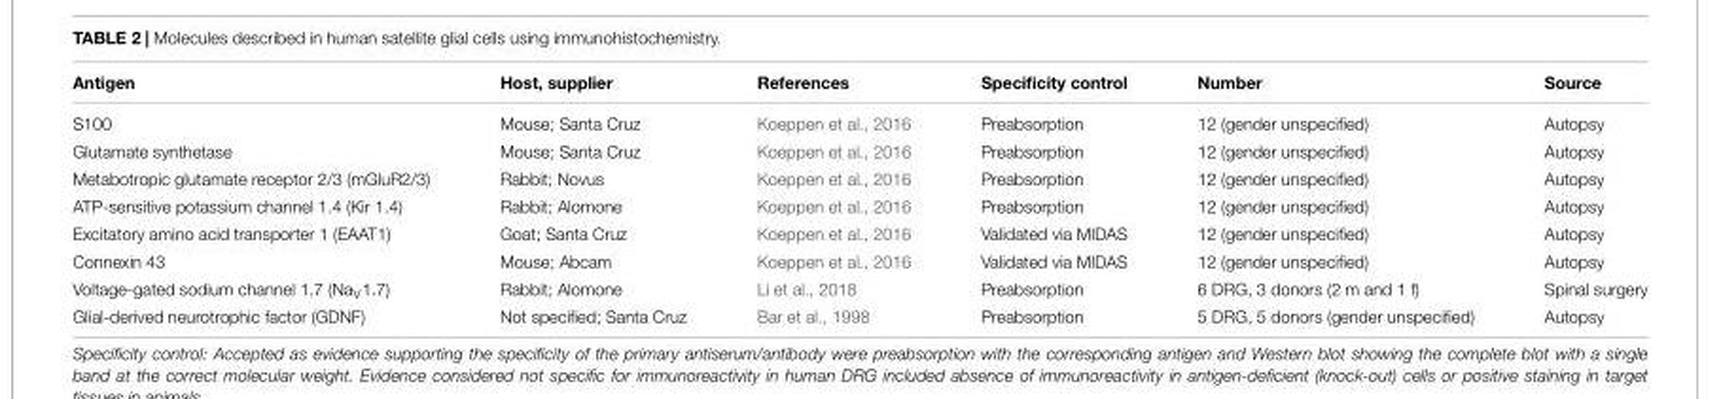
<table><thead><tr><td>Antigen</td><td>Host, supplier</td><td>References</td><td>Specificity control</td><td>Number</td><td>Source</td></tr></thead><tbody><tr><td>S100</td><td>Mouse; Santa Cruz</td><td>Koeppen et al., 2016</td><td>Preabsorption</td><td>12 (gender unspecified)</td><td>Autopsy</td></tr><tr><td>Glutamate synthetase</td><td>Mouse; Santa Cruz</td><td>Koeppen et al., 2016</td><td>Preabsorption</td><td>12 (gender unspecified)</td><td>Autopsy</td></tr><tr><td>Metabotropic glutamate receptor 2/3 (mGluR2/3)</td><td>Rabbit; Novus</td><td>Koeppen et al., 2016</td><td>Preabsorption</td><td>12 (gender unspecified)</td><td>Autopsy</td></tr><tr><td>ATP-sensitive potassium channel 1.4 (Kir 1.4)</td><td>Rabbit; Alomone</td><td>Koeppen et al., 2016</td><td>Preabsorption</td><td>12 (gender unspecified)</td><td>Autopsy</td></tr><tr><td>Excitatory amino acid transporter 1 (EAAT1)</td><td>Goat; Santa Cruz</td><td>Koeppen et al., 2016</td><td>Validated via MIDAS</td><td>12 (gender unspecified)</td><td>Autopsy</td></tr><tr><td>Connexin 43</td><td>Mouse; Abcam</td><td>Koeppen et al., 2016</td><td>Validated via MIDAS</td><td>12 (gender unspecified)</td><td>Autopsy</td></tr><tr><td>Voltage-gated sodium channel 1.7 (Na<sub>V</sub>1.7)</td><td>Rabbit; Alomone</td><td>Li et al., 2018</td><td>Preabsorption</td><td>6 DRG, 3 donors (2 m and 1 f)</td><td>Spinal surgery</td></tr><tr><td>Glial-derived neurotrophic factor (GDNF)</td><td>Not specified; Santa Cruz</td><td>Bar et al., 1998</td><td>Preabsorption</td><td>5 DRG, 5 donors (gender unspecified)</td><td>Autopsy</td></tr></tbody></table>